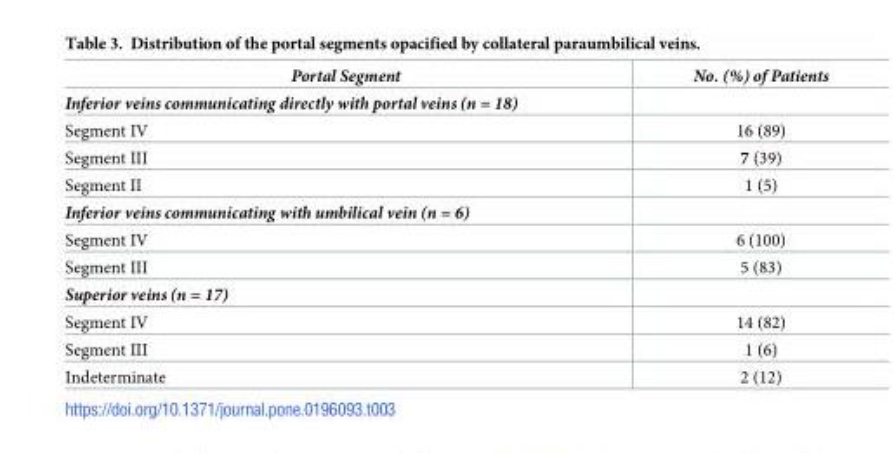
<table><thead><tr><td>Portal Segment</td><td>No. (%) of Patients</td></tr></thead><tbody><tr><td colspan="2">Inferior veins communicating directly with portal veins (n = 18)</td></tr><tr><td>Segment IV</td><td>16 (89)</td></tr><tr><td>Segment III</td><td>7 (39)</td></tr><tr><td>Segment II</td><td>1 (5)</td></tr><tr><td colspan="2">Inferior veins communicating with umbilical vein (n = 6)</td></tr><tr><td>Segment IV</td><td>6 (100)</td></tr><tr><td>Segment III</td><td>5 (83)</td></tr><tr><td colspan="2">Superior veins (n = 17)</td></tr><tr><td>Segment IV</td><td>14 (82)</td></tr><tr><td>Segment III</td><td>1 (6)</td></tr><tr><td>Indeterminate</td><td>2 (12)</td></tr></tbody></table>